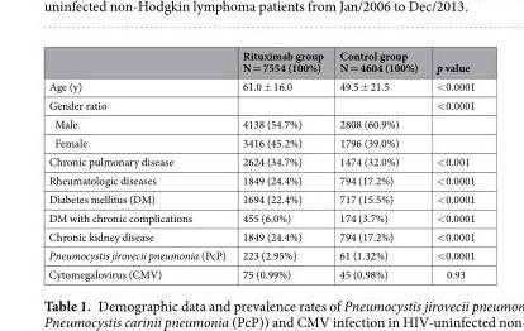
<table><thead><tr><td></td><td>Rituximab group N = 7554 (100%)</td><td>Control group N = 4604 (100%)</td><td>p value</td></tr></thead><tbody><tr><td>Age (y)</td><td>61.0 ± 16.0</td><td>49.5 ± 21.5</td><td>&lt;0.0001</td></tr><tr><td>Gender ratio</td><td></td><td></td><td>&lt;0.0001</td></tr><tr><td>Male</td><td>4138 (54.7%)</td><td>2808 (60.9%)</td><td></td></tr><tr><td>Female</td><td>3416 (45.2%)</td><td>1796 (39.0%)</td><td></td></tr><tr><td>Chronic pulmonary disease</td><td>2624 (34.7%)</td><td>1474 (32.0%)</td><td>&lt;0.001</td></tr><tr><td>Rheumatologic diseases</td><td>1849 (24.4%)</td><td>794 (17.2%)</td><td>&lt;0.0001</td></tr><tr><td>Diabetes mellitus (DM)</td><td>1694 (22.4%)</td><td>717 (15.5%)</td><td>&lt;0.0001</td></tr><tr><td>DM with chronic complications</td><td>455 (6.0%)</td><td>174 (3.7%)</td><td>&lt;0.0001</td></tr><tr><td>Chronic kidney disease</td><td>1849 (24.4%)</td><td>794 (17.2%)</td><td>&lt;0.0001</td></tr><tr><td>Pneumocystis jirovecii pneumonia (PcP)</td><td>223 (2.95%)</td><td>61 (1.32%)</td><td>&lt;0.0001</td></tr><tr><td>Cytomegalovirus (CMV)</td><td>75 (0.99%)</td><td>45 (0.98%)</td><td>0.93</td></tr></tbody></table>